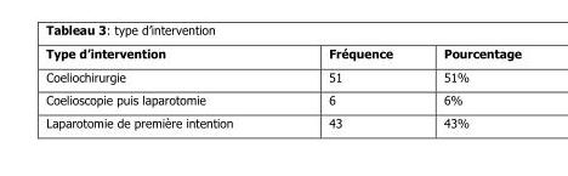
<table><thead><tr><td>Type d’intervention</td><td>Fréquence</td><td>Pourcentage</td></tr></thead><tbody><tr><td>Coeliochirurgie</td><td>51</td><td>51%</td></tr><tr><td>Coelioscopie puis laparotomie</td><td>6</td><td>6%</td></tr><tr><td>Laparotomie de première intention</td><td>43</td><td>43%</td></tr></tbody></table>